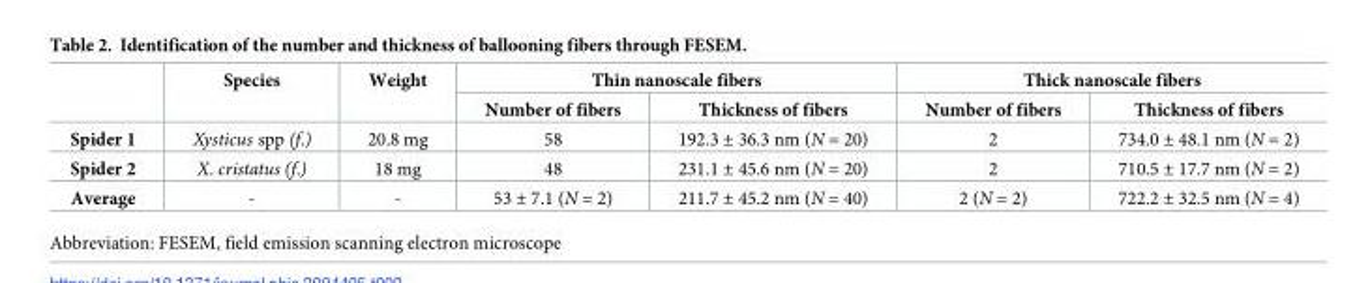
<table><thead><tr><td rowspan="2"></td><td rowspan="2">Species</td><td rowspan="2">Weight</td><td colspan="2">Thin nanoscale fibers</td><td colspan="2">Thick nanoscale fibers</td></tr><tr><td>Number of fibers</td><td>Thickness of fibers</td><td>Number of fibers</td><td>Thickness of fibers</td></tr></thead><tbody><tr><td>Spider 1</td><td>Xysticus spp (f.)</td><td>20.8 mg</td><td>58</td><td>192.3 ± 36.3 nm (N = 20)</td><td>2</td><td>734.0 ± 48.1 nm (N = 2)</td></tr><tr><td>Spider 2</td><td>X. cristatus (f.)</td><td>18 mg</td><td>48</td><td>231.1 ± 45.6 nm (N = 20)</td><td>2</td><td>710.5 ± 17.7 nm (N = 2)</td></tr><tr><td>Average</td><td>-</td><td>-</td><td>53 ± 7.1 (N = 2)</td><td>211.7 ± 45.2 nm (N = 40)</td><td>2 (N = 2)</td><td>722.2 ± 32.5 nm (N = 4)</td></tr></tbody></table>